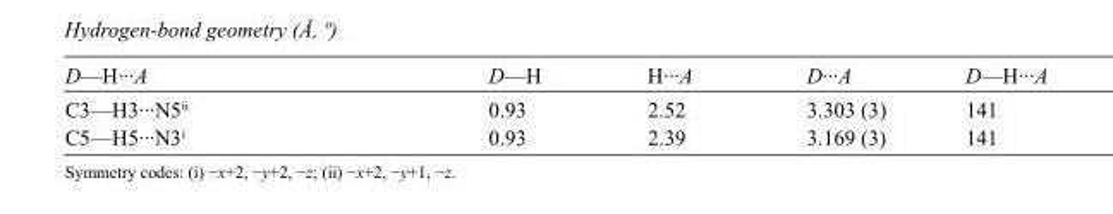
<table><tbody><tr><td>D—H···A</td><td>D—H</td><td>H···A</td><td>D···A</td><td>D—H···A</td></tr><tr><td>C3—H3···N5<sup>ii</sup></td><td>0.93</td><td>2.52</td><td>3.303 (3)</td><td>141</td></tr><tr><td>C5—H5···N3<sup>i</sup></td><td>0.93</td><td>2.39</td><td>3.169 (3)</td><td>141</td></tr></tbody></table>